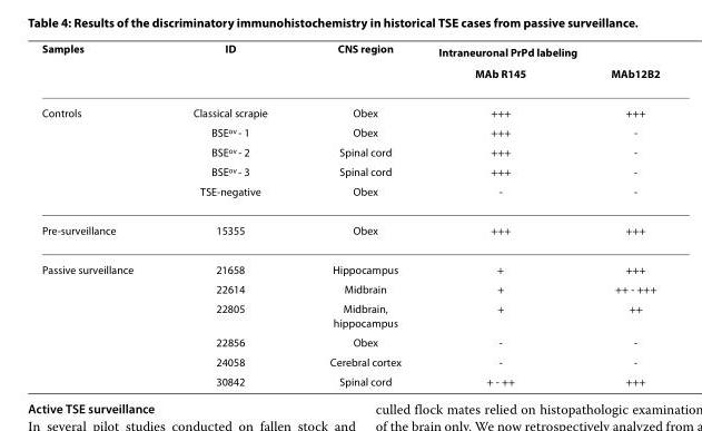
<table><thead><tr><td rowspan="2">Samples</td><td rowspan="2">ID</td><td rowspan="2">CNS region</td><td colspan="2">Intraneuronal PrP<sup>d</sup> labeling</td></tr><tr><td>MAb R145</td><td>MAb12B2</td></tr></thead><tbody><tr><td rowspan="5">Controls</td><td>Classical scrapie</td><td>Obex</td><td>+++</td><td>+++</td></tr><tr><td>BSE<sup>ov</sup> - 1</td><td>Obex</td><td>+++</td><td>-</td></tr><tr><td>BSE<sup>ov</sup> - 2</td><td>Spinal cord</td><td>+++</td><td>-</td></tr><tr><td>BSE<sup>ov</sup> - 3</td><td>Spinal cord</td><td>+++</td><td>-</td></tr><tr><td>TSE-negative</td><td>Obex</td><td>-</td><td>-</td></tr><tr><td>Pre-surveillance</td><td>15355</td><td>Obex</td><td>+++</td><td>+++</td></tr><tr><td rowspan="6">Passive surveillance</td><td>21658</td><td>Hippocampus</td><td>+</td><td>+++</td></tr><tr><td>22614</td><td>Midbrain</td><td>+</td><td>++ - +++</td></tr><tr><td>22805</td><td>Midbrain, hippocampus</td><td>+</td><td>++</td></tr><tr><td>22856</td><td>Obex</td><td>-</td><td>-</td></tr><tr><td>24058</td><td>Cerebral cortex</td><td>-</td><td>-</td></tr><tr><td>30842</td><td>Spinal cord</td><td>+ - ++</td><td>+++</td></tr></tbody></table>